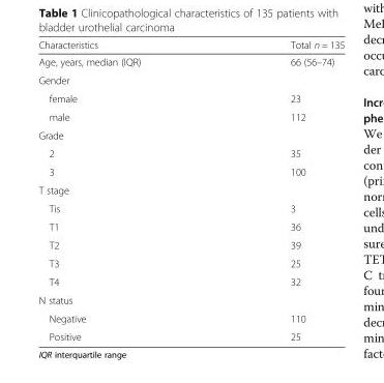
<table><thead><tr><td>Characteristics</td><td>Total n = 135</td></tr></thead><tbody><tr><td>Age, years, median (IQR)</td><td>66 (56–74)</td></tr><tr><td colspan="2">Gender</td></tr><tr><td>female</td><td>23</td></tr><tr><td>male</td><td>112</td></tr><tr><td colspan="2">Grade</td></tr><tr><td>2</td><td>35</td></tr><tr><td>3</td><td>100</td></tr><tr><td colspan="2">T stage</td></tr><tr><td>Tis</td><td>3</td></tr><tr><td>T1</td><td>36</td></tr><tr><td>T2</td><td>39</td></tr><tr><td>T3</td><td>25</td></tr><tr><td>T4</td><td>32</td></tr><tr><td colspan="2">N status</td></tr><tr><td>Negative</td><td>110</td></tr><tr><td>Positive</td><td>25</td></tr></tbody></table>